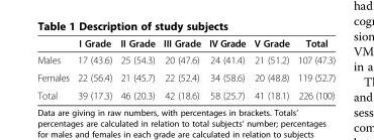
<table><thead><tr><td></td><td>I Grade</td><td>II Grade</td><td>III Grade</td><td>IV Grade</td><td>V Grade</td><td>Total</td></tr></thead><tbody><tr><td>Males</td><td>17 (43.6)</td><td>25 (54.3)</td><td>20 (47.6)</td><td>24 (41.4)</td><td>21 (51.2)</td><td>107 (47.3)</td></tr><tr><td>Females</td><td>22 (56.4)</td><td>21 (45.7)</td><td>22 (52.4)</td><td>34 (58.6)</td><td>20 (48.8)</td><td>119 (52.7)</td></tr><tr><td>Total</td><td>39 (17.3)</td><td>46 (20.3)</td><td>42 (18.6)</td><td>58 (25.7)</td><td>41 (18.1)</td><td>226 (100)</td></tr></tbody></table>